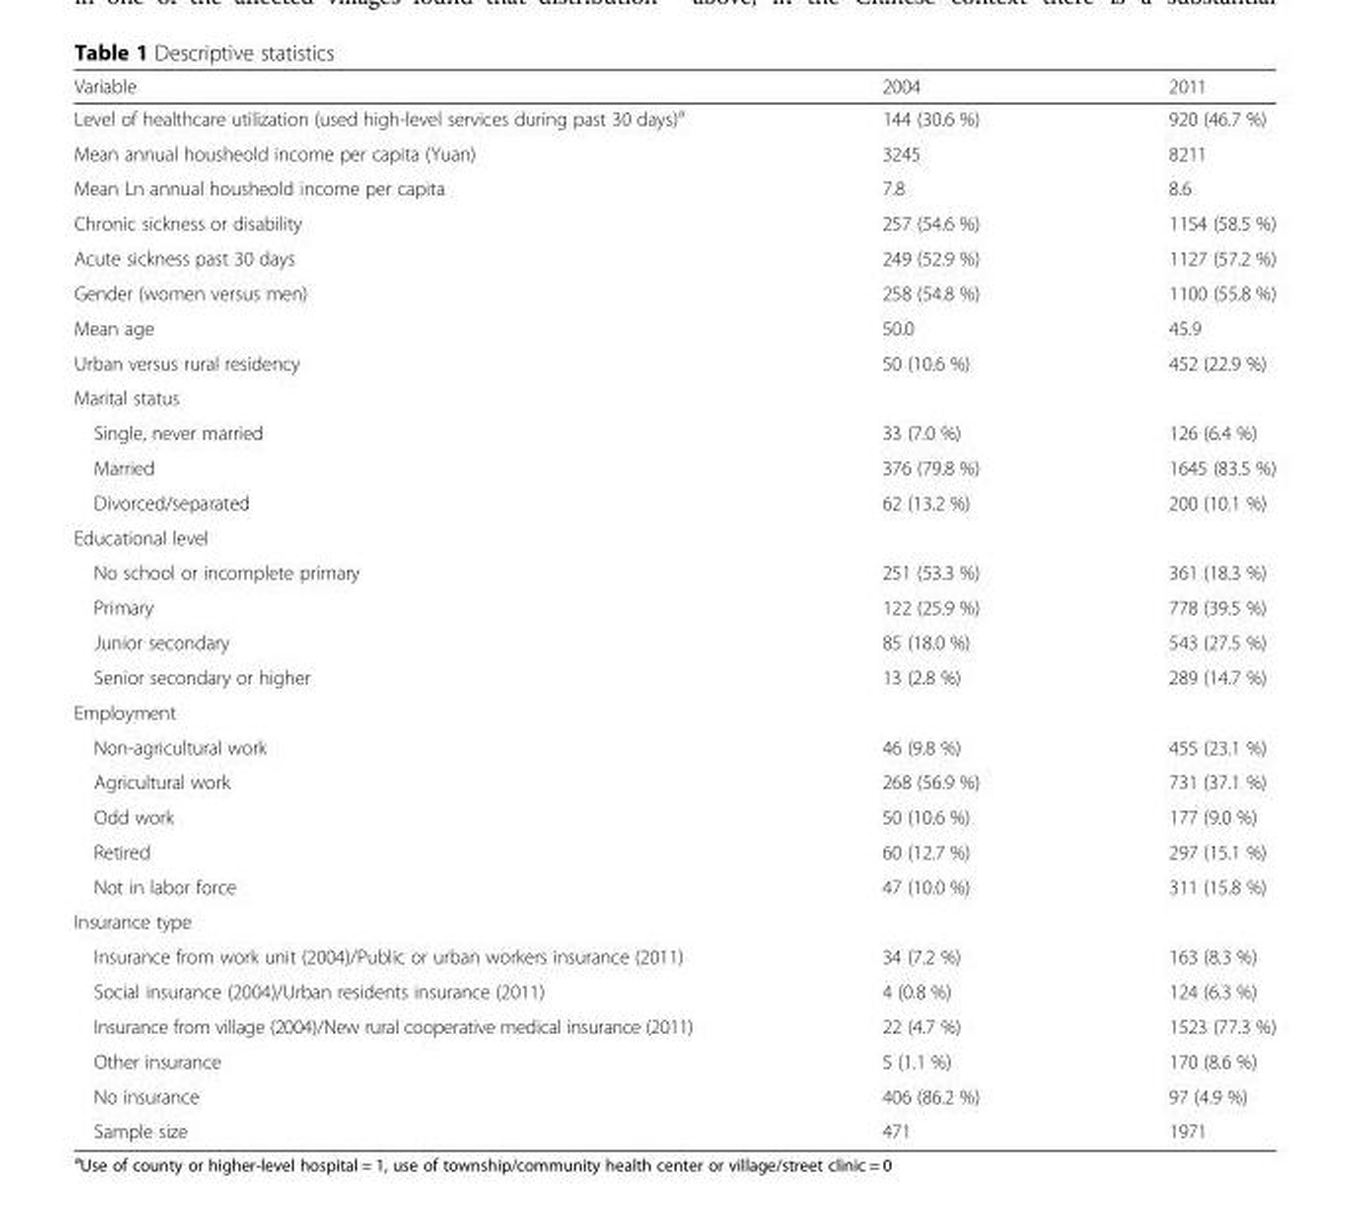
<table><thead><tr><td>Variable</td><td>2004</td><td>2011</td></tr></thead><tbody><tr><td>Level of healthcare utilization (used high-level services during past 30 days)<sup>a</sup></td><td>144 (30.6 %)</td><td>920 (46.7 %)</td></tr><tr><td>Mean annual housheold income per capita (Yuan)</td><td>3245</td><td>8211</td></tr><tr><td>Mean Ln annual housheold income per capita</td><td>7.8</td><td>8.6</td></tr><tr><td>Chronic sickness or disability</td><td>257 (54.6 %)</td><td>1154 (58.5 %)</td></tr><tr><td>Acute sickness past 30 days</td><td>249 (52.9 %)</td><td>1127 (57.2 %)</td></tr><tr><td>Gender (women versus men)</td><td>258 (54.8 %)</td><td>1100 (55.8 %)</td></tr><tr><td>Mean age</td><td>50.0</td><td>45.9</td></tr><tr><td>Urban versus rural residency</td><td>50 (10.6 %)</td><td>452 (22.9 %)</td></tr><tr><td colspan="3">Marital status</td></tr><tr><td>Single, never married</td><td>33 (7.0 %)</td><td>126 (6.4 %)</td></tr><tr><td>Married</td><td>376 (79.8 %)</td><td>1645 (83.5 %)</td></tr><tr><td>Divorced/separated</td><td>62 (13.2 %)</td><td>200 (10.1 %)</td></tr><tr><td colspan="3">Educational level</td></tr><tr><td>No school or incomplete primary</td><td>251 (53.3 %)</td><td>361 (18.3 %)</td></tr><tr><td>Primary</td><td>122 (25.9 %)</td><td>778 (39.5 %)</td></tr><tr><td>Junior secondary</td><td>85 (18.0 %)</td><td>543 (27.5 %)</td></tr><tr><td>Senior secondary or higher</td><td>13 (2.8 %)</td><td>289 (14.7 %)</td></tr><tr><td colspan="3">Employment</td></tr><tr><td>Non-agricultural work</td><td>46 (9.8 %)</td><td>455 (23.1 %)</td></tr><tr><td>Agricultural work</td><td>268 (56.9 %)</td><td>731 (37.1 %)</td></tr><tr><td>Odd work</td><td>50 (10.6 %)</td><td>177 (9.0 %)</td></tr><tr><td>Retired</td><td>60 (12.7 %)</td><td>297 (15.1 %)</td></tr><tr><td>Not in labor force</td><td>47 (10.0 %)</td><td>311 (15.8 %)</td></tr><tr><td colspan="3">Insurance type</td></tr><tr><td>Insurance from work unit (2004)/Public or urban workers insurance (2011)</td><td>34 (7.2 %)</td><td>163 (8.3 %)</td></tr><tr><td>Social insurance (2004)/Urban residents insurance (2011)</td><td>4 (0.8 %)</td><td>124 (6.3 %)</td></tr><tr><td>Insurance from village (2004)/New rural cooperative medical insurance (2011)</td><td>22 (4.7 %)</td><td>1523 (77.3 %)</td></tr><tr><td>Other insurance</td><td>5 (1.1 %)</td><td>170 (8.6 %)</td></tr><tr><td>No insurance</td><td>406 (86.2 %)</td><td>97 (4.9 %)</td></tr><tr><td>Sample size</td><td>471</td><td>1971</td></tr></tbody></table>